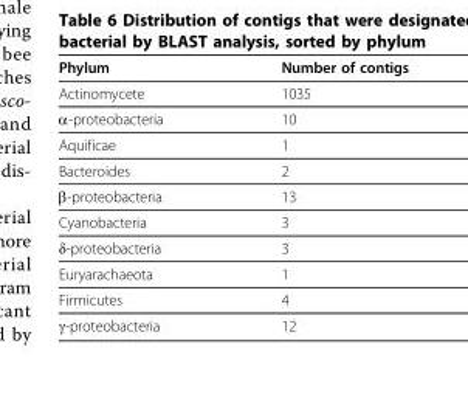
<table><thead><tr><td>Phylum</td><td>Number of contigs</td></tr></thead><tbody><tr><td>Actinomycete</td><td>1035</td></tr><tr><td>α-proteobacteria</td><td>10</td></tr><tr><td>Aquificae</td><td>1</td></tr><tr><td>Bacteroides</td><td>2</td></tr><tr><td>β-proteobacteria</td><td>13</td></tr><tr><td>Cyanobacteria</td><td>3</td></tr><tr><td>δ-proteobacteria</td><td>3</td></tr><tr><td>Euryarachaeota</td><td>1</td></tr><tr><td>Firmicutes</td><td>4</td></tr><tr><td>γ-proteobacteria</td><td>12</td></tr></tbody></table>